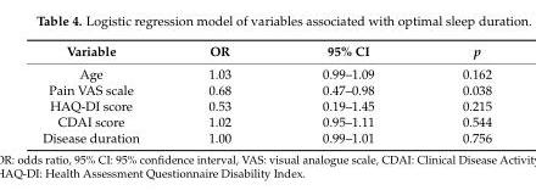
<table><thead><tr><td>Variable</td><td>OR</td><td>95% CI</td><td>p</td></tr></thead><tbody><tr><td>Age</td><td>1.03</td><td>0.99–1.09</td><td>0.162</td></tr><tr><td>Pain VAS scale</td><td>0.68</td><td>0.47–0.98</td><td>0.038</td></tr><tr><td>HAQ-DI score</td><td>0.53</td><td>0.19–1.45</td><td>0.215</td></tr><tr><td>CDAI score</td><td>1.02</td><td>0.95–1.11</td><td>0.544</td></tr><tr><td>Disease duration</td><td>1.00</td><td>0.99–1.01</td><td>0.756</td></tr></tbody></table>